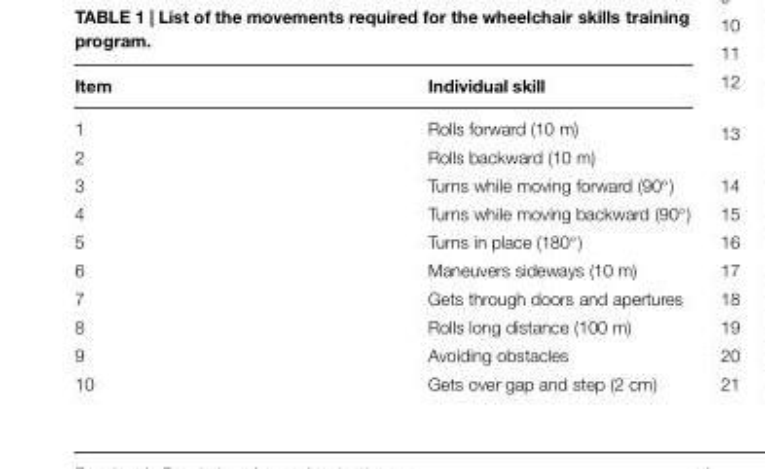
<table><thead><tr><td>Item</td><td>Individual skill</td></tr></thead><tbody><tr><td>1</td><td>Rolls forward (10 m)</td></tr><tr><td>2</td><td>Rolls backward (10 m)</td></tr><tr><td>3</td><td>Turns while moving forward (90◦)</td></tr><tr><td>4</td><td>Turns while moving backward (90◦)</td></tr><tr><td>5</td><td>Turns in place (180◦)</td></tr><tr><td>6</td><td>Maneuvers sideways (10 m)</td></tr><tr><td>7</td><td>Gets through doors and apertures</td></tr><tr><td>8</td><td>Rolls long distance (100 m)</td></tr><tr><td>9</td><td>Avoiding obstacles</td></tr><tr><td>10</td><td>Gets over gap and step (2 cm)</td></tr></tbody></table>